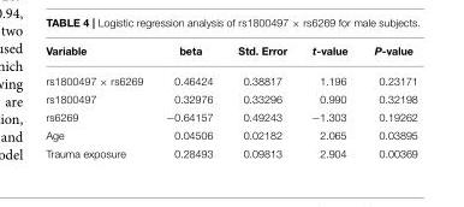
<table><thead><tr><td>Variable</td><td>beta</td><td>Std. Error</td><td>t-value</td><td>P-value</td></tr></thead><tbody><tr><td>rs1800497 × rs6269</td><td>0.46424</td><td>0.38817</td><td>1.196</td><td>0.23171</td></tr><tr><td>rs1800497</td><td>0.32976</td><td>0.33296</td><td>0.990</td><td>0.32198</td></tr><tr><td>rs6269</td><td>−0.64157</td><td>0.49243</td><td>−1.303</td><td>0.19262</td></tr><tr><td>Age</td><td>0.04506</td><td>0.02182</td><td>2.065</td><td>0.03895</td></tr><tr><td>Trauma exposure</td><td>0.28493</td><td>0.09813</td><td>2.904</td><td>0.00369</td></tr></tbody></table>